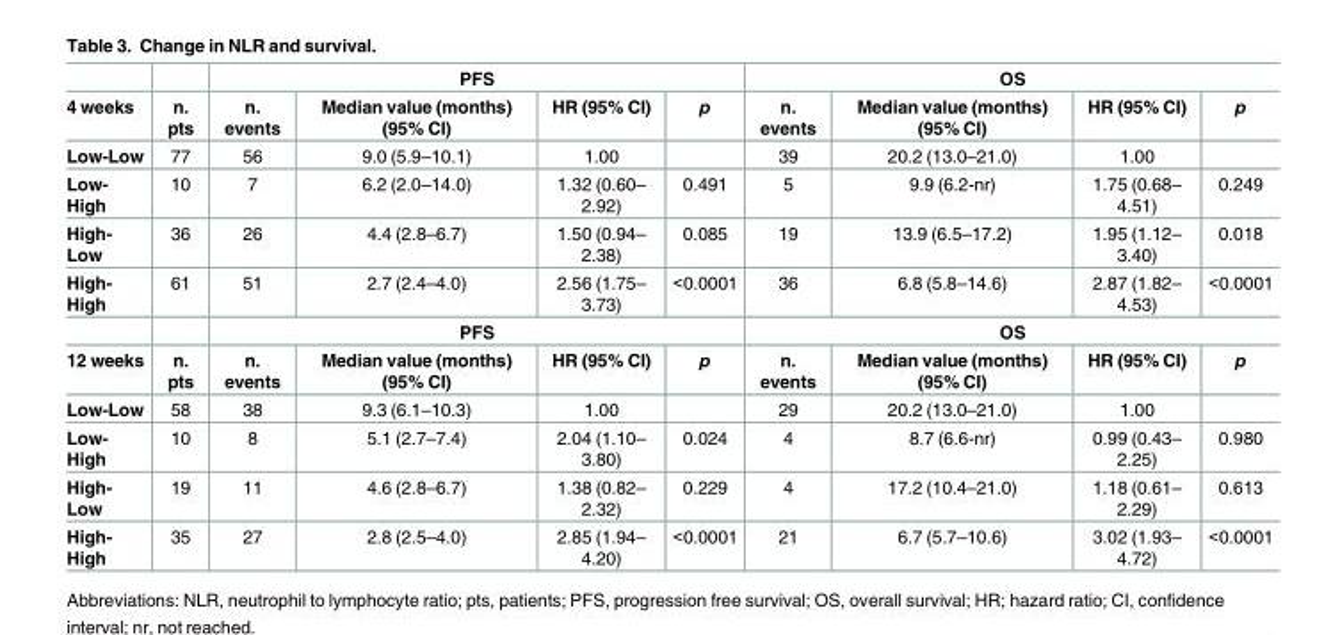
<table><thead><tr><td rowspan="2">4 weeks</td><td rowspan="2">n. pts</td><td colspan="4">PFS</td><td colspan="4">OS</td></tr><tr><td>n. events</td><td>Median value (months) (95% CI)</td><td>HR (95% CI)</td><td>p</td><td>n. events</td><td>Median value (months) (95% CI)</td><td>HR (95% CI)</td><td>p</td></tr></thead><tbody><tr><td>Low-Low</td><td>77</td><td>56</td><td>9.0 (5.9–10.1)</td><td>1.00</td><td></td><td>39</td><td>20.2 (13.0–21.0)</td><td>1.00</td><td></td></tr><tr><td>Low- High</td><td>10</td><td>7</td><td>6.2 (2.0–14.0)</td><td>1.32 (0.60– 2.92)</td><td>0.491</td><td>5</td><td>9.9 (6.2-nr)</td><td>1.75 (0.68– 4.51)</td><td>0.249</td></tr><tr><td>High- Low</td><td>36</td><td>26</td><td>4.4 (2.8–6.7)</td><td>1.50 (0.94– 2.38)</td><td>0.085</td><td>19</td><td>13.9 (6.5–17.2)</td><td>1.95 (1.12– 3.40)</td><td>0.018</td></tr><tr><td rowspan="2">High- High</td><td>61</td><td>51</td><td>2.7 (2.4–4.0)</td><td>2.56 (1.75– 3.73)</td><td>&lt;0.0001</td><td>36</td><td>6.8 (5.8–14.6)</td><td>2.87 (1.82– 4.53)</td><td>&lt;0.0001</td></tr><tr><td></td><td colspan="4">PFS</td><td colspan="4">OS</td></tr><tr><td>12 weeks</td><td>n. pts</td><td>n. events</td><td>Median value (months) (95% CI)</td><td>HR (95% CI)</td><td>p</td><td>n. events</td><td>Median value (months) (95% CI)</td><td>HR (95% CI)</td><td>p</td></tr><tr><td>Low-Low</td><td>58</td><td>38</td><td>9.3 (6.1–10.3)</td><td>1.00</td><td></td><td>29</td><td>20.2 (13.0–21.0)</td><td>1.00</td><td></td></tr><tr><td>Low- High</td><td>10</td><td>8</td><td>5.1 (2.7–7.4)</td><td>2.04 (1.10– 3.80)</td><td>0.024</td><td>4</td><td>8.7 (6.6-nr)</td><td>0.99 (0.43– 2.25)</td><td>0.980</td></tr><tr><td>High- Low</td><td>19</td><td>11</td><td>4.6 (2.8–6.7)</td><td>1.38 (0.82– 2.32)</td><td>0.229</td><td>4</td><td>17.2 (10.4–21.0)</td><td>1.18 (0.61– 2.29)</td><td>0.613</td></tr><tr><td>High- High</td><td>35</td><td>27</td><td>2.8 (2.5–4.0)</td><td>2.85 (1.94– 4.20)</td><td>&lt;0.0001</td><td>21</td><td>6.7 (5.7–10.6)</td><td>3.02 (1.93– 4.72)</td><td>&lt;0.0001</td></tr></tbody></table>